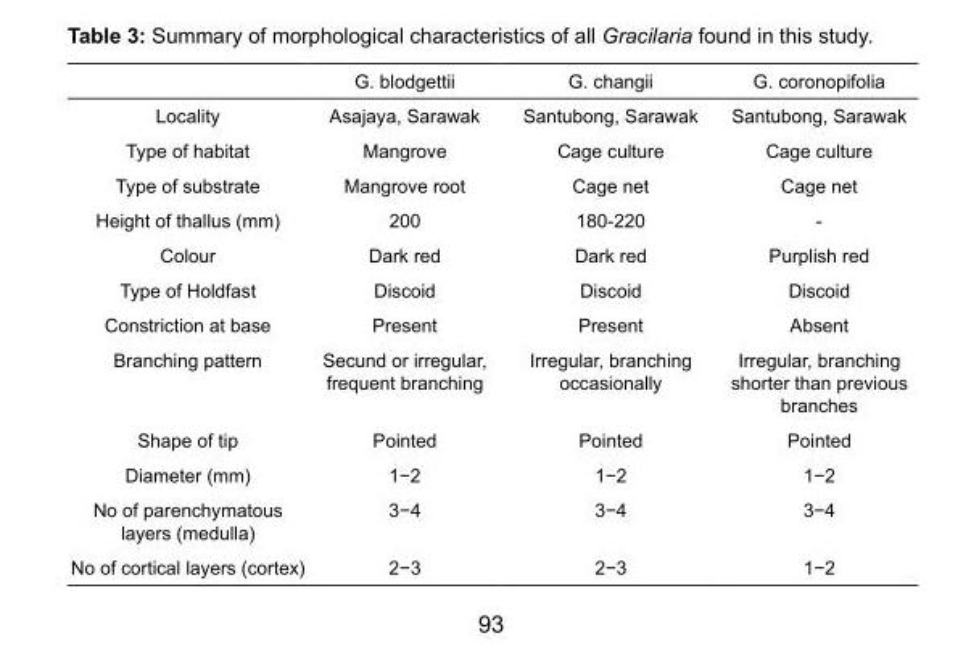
<table><thead><tr><td></td><td>G. blodgettii</td><td>G. changii</td><td>G. coronopifolia</td></tr></thead><tbody><tr><td>Locality</td><td>Asajaya, Sarawak</td><td>Santubong, Sarawak</td><td>Santubong, Sarawak</td></tr><tr><td>Type of habitat</td><td>Mangrove</td><td>Cage culture</td><td>Cage culture</td></tr><tr><td>Type of substrate</td><td>Mangrove root</td><td>Cage net</td><td>Cage net</td></tr><tr><td>Height of thallus (mm)</td><td>200</td><td>180-220</td><td>-</td></tr><tr><td>Colour</td><td>Dark red</td><td>Dark red</td><td>Purplish red</td></tr><tr><td>Type of Holdfast</td><td>Discoid</td><td>Discoid</td><td>Discoid</td></tr><tr><td>Constriction at base</td><td>Present</td><td>Present</td><td>Absent</td></tr><tr><td>Branching pattern</td><td>Secund or irregular, frequent branching</td><td>Irregular, branching occasionally</td><td>Irregular, branching shorter than previous branches</td></tr><tr><td>Shape of tip</td><td>Pointed</td><td>Pointed</td><td>Pointed</td></tr><tr><td>Diameter (mm)</td><td>1−2</td><td>1−2</td><td>1−2</td></tr><tr><td>No of parenchymatous layers (medulla)</td><td>3−4</td><td>3−4</td><td>3−4</td></tr><tr><td>No of cortical layers (cortex)</td><td>2−3</td><td>2−3</td><td>1−2</td></tr></tbody></table>